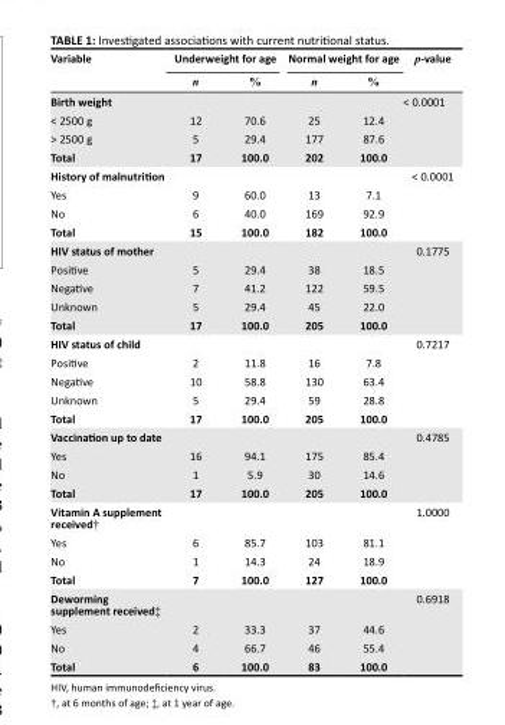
<table><thead><tr><td rowspan="2">Variable</td><td colspan="2">Underweight for age</td><td colspan="2">Normal weight for age</td><td rowspan="2">p-value</td></tr><tr><td>n</td><td>%</td><td>n</td><td>%</td></tr></thead><tbody><tr><td>Birth weight</td><td></td><td></td><td></td><td></td><td>&lt; 0.0001</td></tr><tr><td>&lt; 2500 g</td><td>12</td><td>70.6</td><td>25</td><td>12.4</td><td></td></tr><tr><td>&gt; 2500 g</td><td>5</td><td>29.4</td><td>177</td><td>87.6</td><td></td></tr><tr><td>Total</td><td>17</td><td>100.0</td><td>202</td><td>100.0</td><td></td></tr><tr><td>History of malnutrition</td><td></td><td></td><td></td><td></td><td>&lt; 0.0001</td></tr><tr><td>Yes</td><td>9</td><td>60.0</td><td>13</td><td>7.1</td><td></td></tr><tr><td>No</td><td>6</td><td>40.0</td><td>169</td><td>92.9</td><td></td></tr><tr><td>Total</td><td>15</td><td>100.0</td><td>182</td><td>100.0</td><td></td></tr><tr><td>HIV status of mother</td><td></td><td></td><td></td><td></td><td>0.1775</td></tr><tr><td>Positive</td><td>5</td><td>29.4</td><td>38</td><td>18.5</td><td></td></tr><tr><td>Negative</td><td>7</td><td>41.2</td><td>122</td><td>59.5</td><td></td></tr><tr><td>Unknown</td><td>5</td><td>29.4</td><td>45</td><td>22.0</td><td></td></tr><tr><td>Total</td><td>17</td><td>100.0</td><td>205</td><td>100.0</td><td></td></tr><tr><td>HIV status of child</td><td></td><td></td><td></td><td></td><td>0.7217</td></tr><tr><td>Positive</td><td>2</td><td>11.8</td><td>16</td><td>7.8</td><td></td></tr><tr><td>Negative</td><td>10</td><td>58.8</td><td>130</td><td>63.4</td><td></td></tr><tr><td>Unknown</td><td>5</td><td>29.4</td><td>59</td><td>28.8</td><td></td></tr><tr><td>Total</td><td>17</td><td>100.0</td><td>205</td><td>100.0</td><td></td></tr><tr><td>Vaccination up to date</td><td></td><td></td><td></td><td></td><td>0.4785</td></tr><tr><td>Yes</td><td>16</td><td>94.1</td><td>175</td><td>85.4</td><td></td></tr><tr><td>No</td><td>1</td><td>5.9</td><td>30</td><td>14.6</td><td></td></tr><tr><td>Total</td><td>17</td><td>100.0</td><td>205</td><td>100.0</td><td></td></tr><tr><td>Vitamin A supplement received†</td><td></td><td></td><td></td><td></td><td>1.0000</td></tr><tr><td>Yes</td><td>6</td><td>85.7</td><td>103</td><td>81.1</td><td></td></tr><tr><td>No</td><td>1</td><td>14.3</td><td>24</td><td>18.9</td><td></td></tr><tr><td>Total</td><td>7</td><td>100.0</td><td>127</td><td>100.0</td><td></td></tr><tr><td>Deworming supplement received‡</td><td></td><td></td><td></td><td></td><td>0.6918</td></tr><tr><td>Yes</td><td>2</td><td>33.3</td><td>37</td><td>44.6</td><td></td></tr><tr><td>No</td><td>4</td><td>66.7</td><td>46</td><td>55.4</td><td></td></tr><tr><td>Total</td><td>6</td><td>100.0</td><td>83</td><td>100.0</td><td></td></tr></tbody></table>